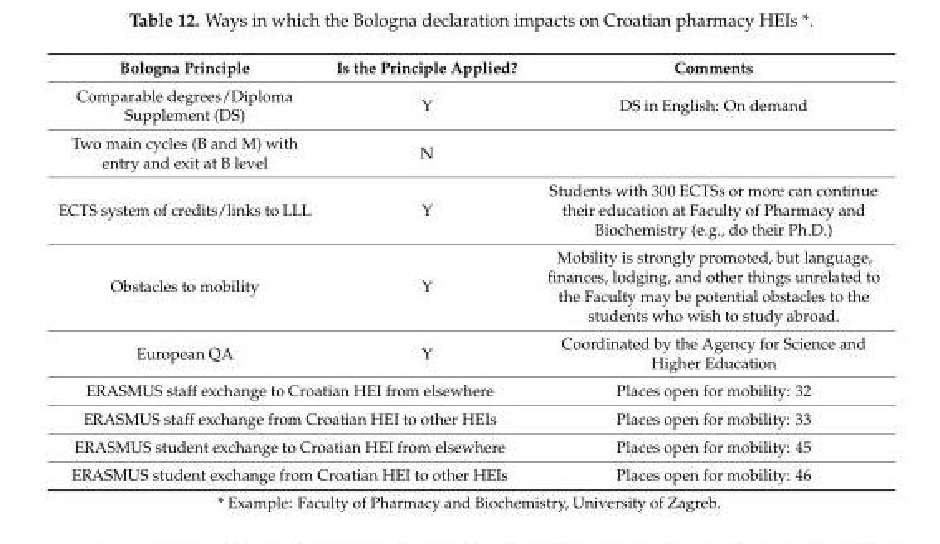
<table><thead><tr><td>Bologna Principle</td><td>Is the Principle Applied?</td><td>Comments</td></tr></thead><tbody><tr><td>Comparable degrees/Diploma Supplement (DS)</td><td>Y</td><td>DS in English: On demand</td></tr><tr><td>Two main cycles (B and M) with entry and exit at B level</td><td>N</td><td></td></tr><tr><td>ECTS system of credits/links to LLL</td><td>Y</td><td>Students with 300 ECTSs or more can continue their education at Faculty of Pharmacy and Biochemistry (e.g., do their Ph.D.)</td></tr><tr><td>Obstacles to mobility</td><td>Y</td><td>Mobility is strongly promoted, but language, finances, lodging, and other things unrelated to the Faculty may be potential obstacles to the students who wish to study abroad.</td></tr><tr><td>European QA</td><td>Y</td><td>Coordinated by the Agency for Science and Higher Education</td></tr><tr><td colspan="2">ERASMUS staff exchange to Croatian HEI from elsewhere</td><td>Places open for mobility: 32</td></tr><tr><td colspan="2">ERASMUS staff exchange from Croatian HEI to other HEIs</td><td>Places open for mobility: 33</td></tr><tr><td colspan="2">ERASMUS student exchange to Croatian HEI from elsewhere</td><td>Places open for mobility: 45</td></tr><tr><td colspan="2">ERASMUS student exchange from Croatian HEI to other HEIs</td><td>Places open for mobility: 46</td></tr></tbody></table>